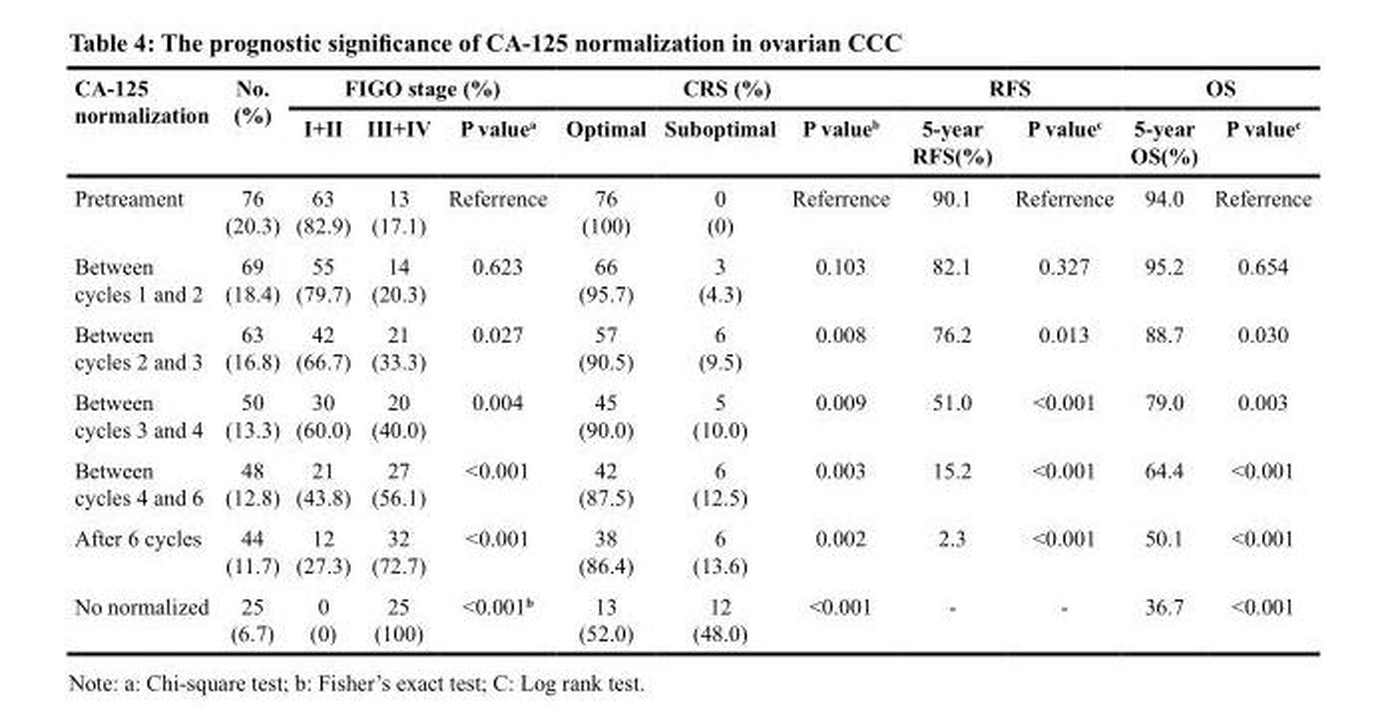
<table><thead><tr><td rowspan="2">CA-125 normalization</td><td rowspan="2">No. (%)</td><td colspan="3">FIGO stage (%)</td><td colspan="3">CRS (%)</td><td colspan="2">RFS</td><td colspan="2">OS</td></tr><tr><td>I+II</td><td>III+IV</td><td>P value<sup>a</sup></td><td>Optimal</td><td>Suboptimal</td><td>P value<sup>b</sup></td><td>5-year RFS(%)</td><td>P value<sup>c</sup></td><td>5-year OS(%)</td><td>P value<sup>c</sup></td></tr></thead><tbody><tr><td>Pretreament</td><td>76 (20.3)</td><td>63 (82.9)</td><td>13 (17.1)</td><td>Referrence</td><td>76 (100)</td><td>0 (0)</td><td>Referrence</td><td>90.1</td><td>Referrence</td><td>94.0</td><td>Referrence</td></tr><tr><td>Between cycles 1 and 2</td><td>69 (18.4)</td><td>55 (79.7)</td><td>14 (20.3)</td><td>0.623</td><td>66 (95.7)</td><td>3 (4.3)</td><td>0.103</td><td>82.1</td><td>0.327</td><td>95.2</td><td>0.654</td></tr><tr><td>Between cycles 2 and 3</td><td>63 (16.8)</td><td>42 (66.7)</td><td>21 (33.3)</td><td>0.027</td><td>57 (90.5)</td><td>6 (9.5)</td><td>0.008</td><td>76.2</td><td>0.013</td><td>88.7</td><td>0.030</td></tr><tr><td>Between cycles 3 and 4</td><td>50 (13.3)</td><td>30 (60.0)</td><td>20 (40.0)</td><td>0.004</td><td>45 (90.0)</td><td>5 (10.0)</td><td>0.009</td><td>51.0</td><td>&lt;0.001</td><td>79.0</td><td>0.003</td></tr><tr><td>Between cycles 4 and 6</td><td>48 (12.8)</td><td>21 (43.8)</td><td>27 (56.1)</td><td>&lt;0.001</td><td>42 (87.5)</td><td>6 (12.5)</td><td>0.003</td><td>15.2</td><td>&lt;0.001</td><td>64.4</td><td>&lt;0.001</td></tr><tr><td>After 6 cycles</td><td>44 (11.7)</td><td>12 (27.3)</td><td>32 (72.7)</td><td>&lt;0.001</td><td>38 (86.4)</td><td>6 (13.6)</td><td>0.002</td><td>2.3</td><td>&lt;0.001</td><td>50.1</td><td>&lt;0.001</td></tr><tr><td>No normalized</td><td>25 (6.7)</td><td>0 (0)</td><td>25 (100)</td><td>&lt;0.001<sup>b</sup></td><td>13 (52.0)</td><td>12 (48.0)</td><td>&lt;0.001</td><td>-</td><td>-</td><td>36.7</td><td>&lt;0.001</td></tr></tbody></table>